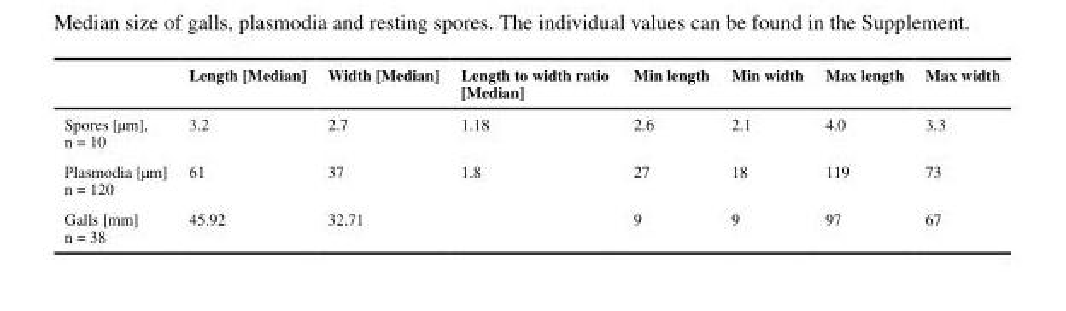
<table><thead><tr><td></td><td>Length [Median]</td><td>Width [Median]</td><td>Length to width ratio [Median]</td><td>Min length</td><td>Min width</td><td>Max length</td><td>Max width</td></tr></thead><tbody><tr><td>Spores [μm], n = 10</td><td>3.2</td><td>2.7</td><td>1.18</td><td>2.6</td><td>2.1</td><td>4.0</td><td>3.3</td></tr><tr><td>Plasmodia [μm] n = 120</td><td>61</td><td>37</td><td>1.8</td><td>27</td><td>18</td><td>119</td><td>73</td></tr><tr><td>Galls [mm] n = 38</td><td>45.92</td><td>32.71</td><td></td><td>9</td><td>9</td><td>97</td><td>67</td></tr></tbody></table>